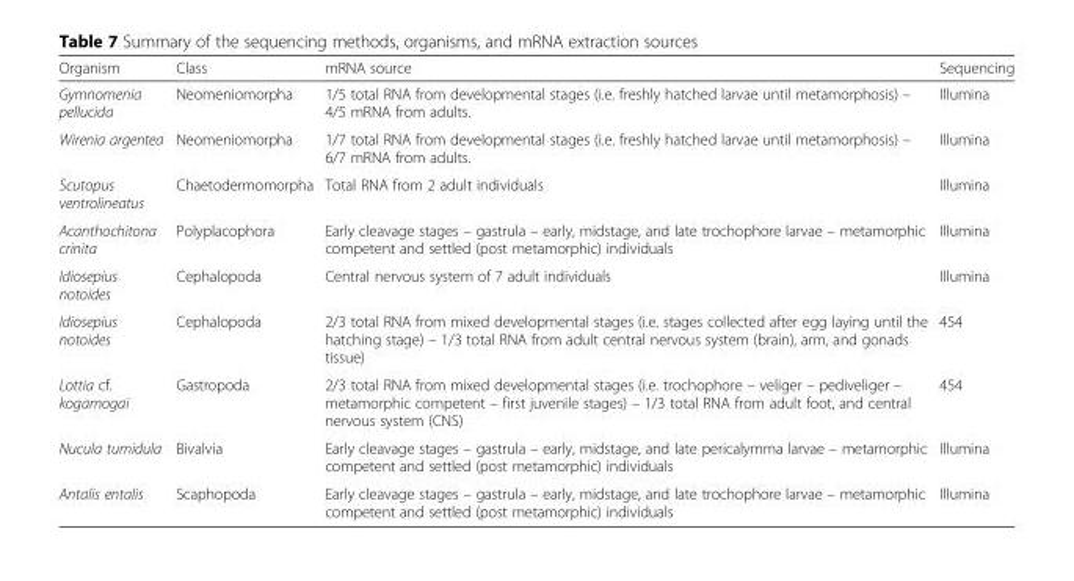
<table><thead><tr><td>Organism</td><td>Class</td><td>mRNA source</td><td>Sequencing</td></tr></thead><tbody><tr><td>Gymnomenia pellucida</td><td>Neomeniomorpha</td><td>1/5 total RNA from developmental stages (i.e. freshly hatched larvae until metamorphosis) – 4/5 mRNA from adults.</td><td>Illumina</td></tr><tr><td>Wirenia argentea</td><td>Neomeniomorpha</td><td>1/7 total RNA from developmental stages (i.e. freshly hatched larvae until metamorphosis) – 6/7 mRNA from adults.</td><td>Illumina</td></tr><tr><td>Scutopus ventrolineatus</td><td>Chaetodermomorpha</td><td>Total RNA from 2 adult individuals</td><td>Illumina</td></tr><tr><td>Acanthochitona crinita</td><td>Polyplacophora</td><td>Early cleavage stages – gastrula – early, midstage, and late trochophore larvae – metamorphic competent and settled (post metamorphic) individuals</td><td>Illumina</td></tr><tr><td>Idiosepius notoides</td><td>Cephalopoda</td><td>Central nervous system of 7 adult individuals</td><td>Illumina</td></tr><tr><td>Idiosepius notoides</td><td>Cephalopoda</td><td>2/3 total RNA from mixed developmental stages (i.e. stages collected after egg laying until the hatching stage) – 1/3 total RNA from adult central nervous system (brain), arm, and gonads tissue)</td><td>454</td></tr><tr><td>Lottia cf. kogamogai</td><td>Gastropoda</td><td>2/3 total RNA from mixed developmental stages (i.e. trochophore – veliger – pediveliger – metamorphic competent – first juvenile stages) – 1/3 total RNA from adult foot, and central nervous system (CNS)</td><td>454</td></tr><tr><td>Nucula tumidula</td><td>Bivalvia</td><td>Early cleavage stages – gastrula – early, midstage, and late pericalymma larvae – metamorphic competent and settled (post metamorphic) individuals</td><td>Illumina</td></tr><tr><td>Antalis entalis</td><td>Scaphopoda</td><td>Early cleavage stages – gastrula – early, midstage, and late trochophore larvae – metamorphic competent and settled (post metamorphic) individuals</td><td>Illumina</td></tr></tbody></table>